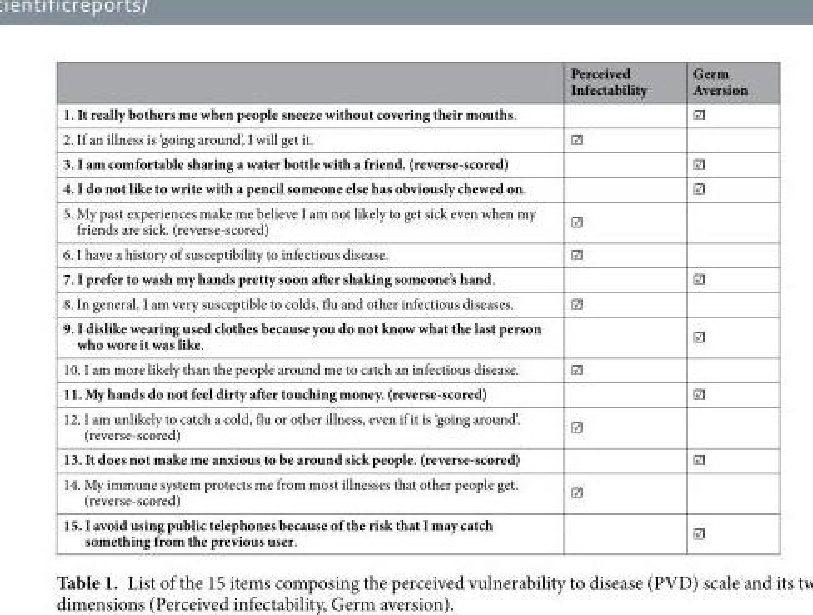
<table><thead><tr><td></td><td>Perceived Infectability</td><td>Germ Aversion</td></tr></thead><tbody><tr><td>1. It really bothers me when people sneeze without covering their mouths.</td><td></td><td>☑</td></tr><tr><td>2. If an illness is ‘going around’, I will get it.</td><td>☑</td><td></td></tr><tr><td>3. I am comfortable sharing a water bottle with a friend. (reverse-scored)</td><td></td><td>☑</td></tr><tr><td>4. I do not like to write with a pencil someone else has obviously chewed on.</td><td></td><td>☑</td></tr><tr><td>5. My past experiences make me believe I am not likely to get sick even when my friends are sick. (reverse-scored)</td><td>☑</td><td></td></tr><tr><td>6. I have a history of susceptibility to infectious disease.</td><td>☑</td><td></td></tr><tr><td>7. I prefer to wash my hands pretty soon after shaking someone’s hand.</td><td></td><td>☑</td></tr><tr><td>8. In general, I am very susceptible to colds, flu and other infectious diseases.</td><td>☑</td><td></td></tr><tr><td>9. I dislike wearing used clothes because you do not know what the last person who wore it was like.</td><td></td><td>☑</td></tr><tr><td>10. I am more likely than the people around me to catch an infectious disease.</td><td>☑</td><td></td></tr><tr><td>11. My hands do not feel dirty after touching money. (reverse-scored)</td><td></td><td>☑</td></tr><tr><td>12. I am unlikely to catch a cold, flu or other illness, even if it is ‘going around’. (reverse-scored)</td><td>☑</td><td></td></tr><tr><td>13. It does not make me anxious to be around sick people. (reverse-scored)</td><td></td><td>☑</td></tr><tr><td>14. My immune system protects me from most illnesses that other people get. (reverse-scored)</td><td>☑</td><td></td></tr><tr><td>15. I avoid using public telephones because of the risk that I may catch something from the previous user.</td><td></td><td>☑</td></tr></tbody></table>